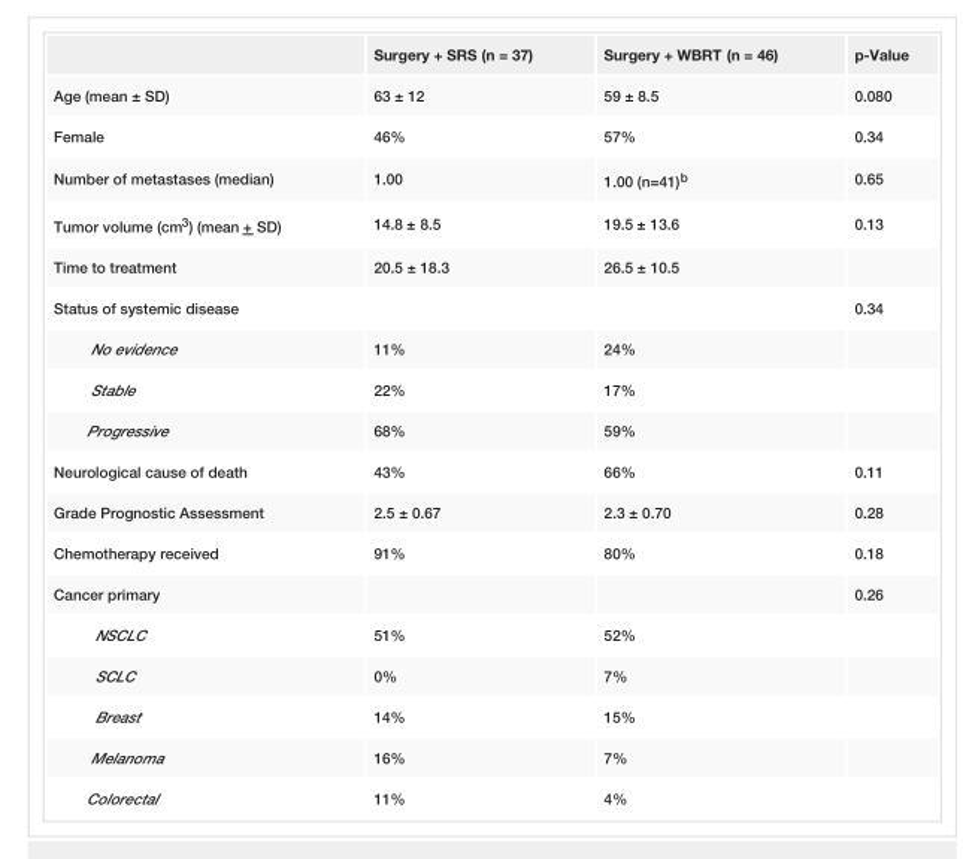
<table><thead><tr><td></td><td>Surgery + SRS (n = 37)</td><td>Surgery + WBRT (n = 46)</td><td>p-Value</td></tr></thead><tbody><tr><td>Age (mean ± SD)</td><td>63 ± 12</td><td>59 ± 8.5</td><td>0.080</td></tr><tr><td>Female</td><td>46%</td><td>57%</td><td>0.34</td></tr><tr><td>Number of metastases (median)</td><td>1.00</td><td>1.00 (n=41)<sup>b</sup></td><td>0.65</td></tr><tr><td>Tumor volume (cm<sup>3</sup>) (mean + SD)</td><td>14.8 ± 8.5</td><td>19.5 ± 13.6</td><td>0.13</td></tr><tr><td>Time to treatment</td><td>20.5 ± 18.3</td><td>26.5 ± 10.5</td><td></td></tr><tr><td>Status of systemic disease</td><td></td><td></td><td>0.34</td></tr><tr><td>No evidence</td><td>11%</td><td>24%</td><td></td></tr><tr><td>Stable</td><td>22%</td><td>17%</td><td></td></tr><tr><td>Progressive</td><td>68%</td><td>59%</td><td></td></tr><tr><td>Neurological cause of death</td><td>43%</td><td>66%</td><td>0.11</td></tr><tr><td>Grade Prognostic Assessment</td><td>2.5 ± 0.67</td><td>2.3 ± 0.70</td><td>0.28</td></tr><tr><td>Chemotherapy received</td><td>91%</td><td>80%</td><td>0.18</td></tr><tr><td>Cancer primary</td><td></td><td></td><td>0.26</td></tr><tr><td>NSCLC</td><td>51%</td><td>52%</td><td></td></tr><tr><td>SCLC</td><td>0%</td><td>7%</td><td></td></tr><tr><td>Breast</td><td>14%</td><td>15%</td><td></td></tr><tr><td>Melanoma</td><td>16%</td><td>7%</td><td></td></tr><tr><td>Colorectal</td><td>11%</td><td>4%</td><td></td></tr></tbody></table>